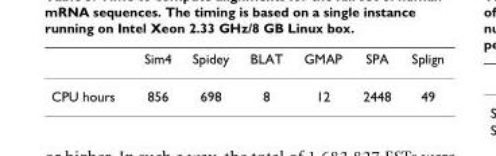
<table><thead><tr><td></td><td>Sim4</td><td>Spidey</td><td>BLAT</td><td>GMAP</td><td>SPA</td><td>Splign</td></tr></thead><tbody><tr><td>CPU hours</td><td>856</td><td>698</td><td>8</td><td>12</td><td>2448</td><td>49</td></tr></tbody></table>